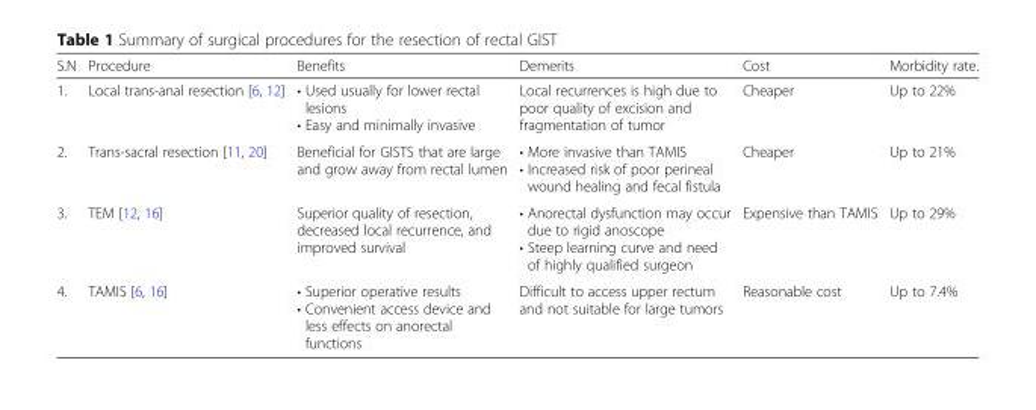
<table><thead><tr><td>S.N</td><td>Procedure</td><td>Benefits</td><td>Demerits</td><td>Cost</td><td>Morbidity rate.</td></tr></thead><tbody><tr><td>1.</td><td>Local trans-anal resection [6, 12]</td><td>• Used usually for lower rectal lesions • Easy and minimally invasive</td><td>Local recurrences is high due to poor quality of excision and fragmentation of tumor</td><td>Cheaper</td><td>Up to 22%</td></tr><tr><td>2.</td><td>Trans-sacral resection [11, 20]</td><td>Beneficial for GISTS that are large and grow away from rectal lumen</td><td>• More invasive than TAMIS • Increased risk of poor perineal wound healing and fecal fistula</td><td>Cheaper</td><td>Up to 21%</td></tr><tr><td>3.</td><td>TEM [12, 16]</td><td>Superior quality of resection, decreased local recurrence, and improved survival</td><td>• Anorectal dysfunction may occur due to rigid anoscope • Steep learning curve and need of highly qualified surgeon</td><td>Expensive than TAMIS</td><td>Up to 29%</td></tr><tr><td>4.</td><td>TAMIS [6, 16]</td><td>• Superior operative results • Convenient access device and less effects on anorectal functions</td><td>Difficult to access upper rectum and not suitable for large tumors</td><td>Reasonable cost</td><td>Up to 7.4%</td></tr></tbody></table>